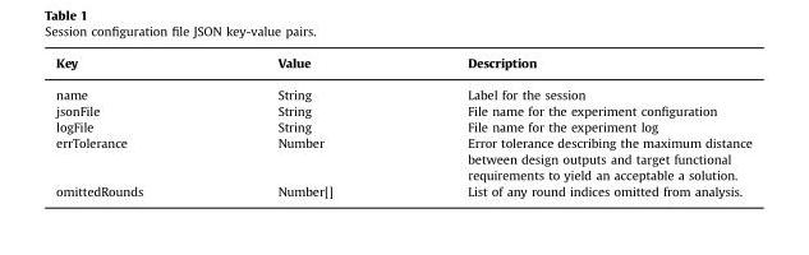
<table><thead><tr><td>Key</td><td>Value</td><td>Description</td></tr></thead><tbody><tr><td>name</td><td>String</td><td>Label for the session</td></tr><tr><td>jsonFile</td><td>String</td><td>File name for the experiment configuration</td></tr><tr><td>logFile</td><td>String</td><td>File name for the experiment log</td></tr><tr><td>errTolerance</td><td>Number</td><td>Error tolerance describing the maximum distance between design outputs and target functional requirements to yield an acceptable a solution.</td></tr><tr><td>omittedRounds</td><td>Number[]</td><td>List of any round indices omitted from analysis.</td></tr></tbody></table>